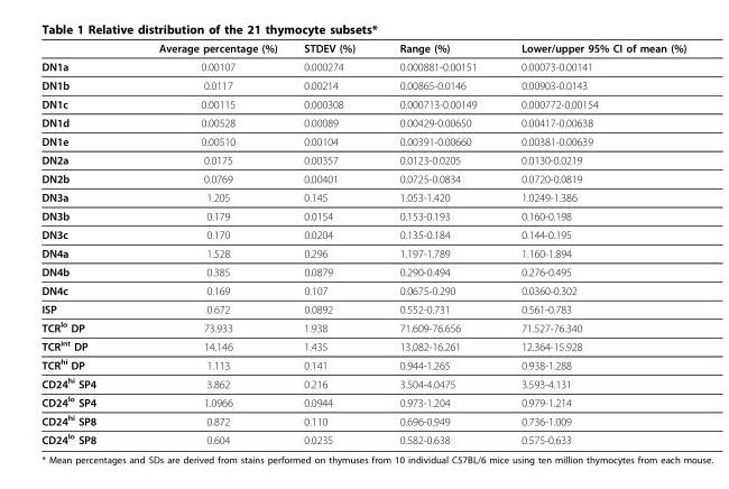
<table><thead><tr><td></td><td>Average percentage (%)</td><td>STDEV (%)</td><td>Range (%)</td><td>Lower/upper 95% CI of mean (%)</td></tr></thead><tbody><tr><td>DN1a</td><td>0.00107</td><td>0.000274</td><td>0.000881-0.00151</td><td>0.00073-0.00141</td></tr><tr><td>DN1b</td><td>0.0117</td><td>0.00214</td><td>0.00865-0.0146</td><td>0.00903-0.0143</td></tr><tr><td>DN1c</td><td>0.00115</td><td>0.000308</td><td>0.000713-0.00149</td><td>0.000772-0.00154</td></tr><tr><td>DN1d</td><td>0.00528</td><td>0.00089</td><td>0.00429-0.00650</td><td>0.00417-0.00638</td></tr><tr><td>DN1e</td><td>0.00510</td><td>0.00104</td><td>0.00391-0.00660</td><td>0.00381-0.00639</td></tr><tr><td>DN2a</td><td>0.0175</td><td>0.00357</td><td>0.0123-0.0205</td><td>0.0130-0.0219</td></tr><tr><td>DN2b</td><td>0.0769</td><td>0.00401</td><td>0.0725-0.0834</td><td>0.0720-0.0819</td></tr><tr><td>DN3a</td><td>1.205</td><td>0.145</td><td>1.053-1.420</td><td>1.0249-1.386</td></tr><tr><td>DN3b</td><td>0.179</td><td>0.0154</td><td>0.153-0.193</td><td>0.160-0.198</td></tr><tr><td>DN3c</td><td>0.170</td><td>0.0204</td><td>0.135-0.184</td><td>0.144-0.195</td></tr><tr><td>DN4a</td><td>1.528</td><td>0.296</td><td>1.197-1.789</td><td>1.160-1.894</td></tr><tr><td>DN4b</td><td>0.385</td><td>0.0879</td><td>0.290-0.494</td><td>0.276-0.495</td></tr><tr><td>DN4c</td><td>0.169</td><td>0.107</td><td>0.0675-0.290</td><td>0.0360-0.302</td></tr><tr><td>ISP</td><td>0.672</td><td>0.0892</td><td>0.552-0.731</td><td>0.561-0.783</td></tr><tr><td>TCR<sup>lo</sup> DP</td><td>73.933</td><td>1.938</td><td>71.609-76.656</td><td>71.527-76.340</td></tr><tr><td>TCR<sup>int</sup> DP</td><td>14.146</td><td>1.435</td><td>13.082-16.261</td><td>12.364-15.928</td></tr><tr><td>TCR<sup>hi</sup> DP</td><td>1.113</td><td>0.141</td><td>0.944-1.265</td><td>0.938-1.288</td></tr><tr><td>CD24<sup>hi</sup> SP4</td><td>3.862</td><td>0.216</td><td>3.504-4.0475</td><td>3.593-4.131</td></tr><tr><td>CD24<sup>lo</sup> SP4</td><td>1.0966</td><td>0.0944</td><td>0.973-1.204</td><td>0.979-1.214</td></tr><tr><td>CD24<sup>hi</sup> SP8</td><td>0.872</td><td>0.110</td><td>0.696-0.949</td><td>0.736-1.009</td></tr><tr><td>CD24<sup>lo</sup> SP8</td><td>0.604</td><td>0.0235</td><td>0.582-0.638</td><td>0.575-0.633</td></tr></tbody></table>